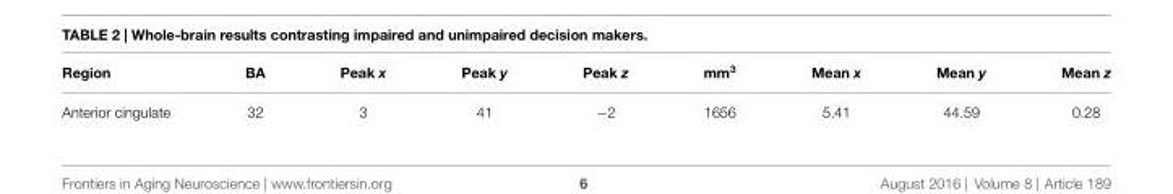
<table><thead><tr><td>Region</td><td>BA</td><td>Peak x</td><td>Peak y</td><td>Peak z</td><td>mm<sup>3</sup></td><td>Mean x</td><td>Mean y</td><td>Mean z</td></tr></thead><tbody><tr><td>Anterior cingulate</td><td>32</td><td>3</td><td>41</td><td>−2</td><td>1656</td><td>5.41</td><td>44.59</td><td>0.28</td></tr></tbody></table>